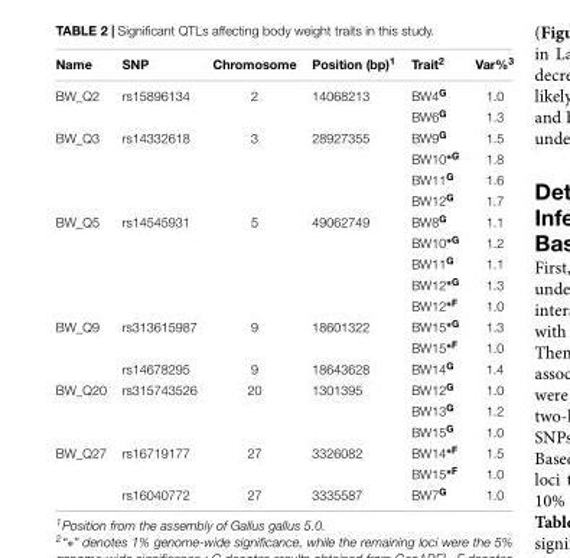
<table><thead><tr><td>Name</td><td>SNP</td><td>Chromosome</td><td>Position (bp)<sup>1</sup></td><td>Trait<sup>2</sup></td><td>Var%<sup>3</sup></td></tr></thead><tbody><tr><td rowspan="2">BW_Q2</td><td>rs15896134</td><td>2</td><td>14068213</td><td>BW4<sup>G</sup></td><td>1.0</td></tr><tr><td></td><td></td><td></td><td>BW6<sup>G</sup></td><td>1.3</td></tr><tr><td rowspan="4">BW_Q3</td><td>rs14332618</td><td>3</td><td>28927355</td><td>BW9<sup>G</sup></td><td>1.5</td></tr><tr><td></td><td></td><td></td><td>BW10<sup>∗G</sup></td><td>1.8</td></tr><tr><td></td><td></td><td></td><td>BW11<sup>G</sup></td><td>1.6</td></tr><tr><td></td><td></td><td></td><td>BW12<sup>G</sup></td><td>1.7</td></tr><tr><td rowspan="5">BW_Q5</td><td>rs14545931</td><td>5</td><td>49062749</td><td>BW8<sup>G</sup></td><td>1.1</td></tr><tr><td></td><td></td><td></td><td>BW10<sup>∗G</sup></td><td>1.2</td></tr><tr><td></td><td></td><td></td><td>BW11<sup>G</sup></td><td>1.1</td></tr><tr><td></td><td></td><td></td><td>BW12<sup>∗G</sup></td><td>1.3</td></tr><tr><td></td><td></td><td></td><td>BW12<sup>∗F</sup></td><td>1.0</td></tr><tr><td rowspan="3">BW_Q9</td><td>rs313615987</td><td>9</td><td>18601322</td><td>BW15<sup>∗G</sup></td><td>1.3</td></tr><tr><td></td><td></td><td></td><td>BW15<sup>∗F</sup></td><td>1.0</td></tr><tr><td>rs14678295</td><td>9</td><td>18643628</td><td>BW14<sup>G</sup></td><td>1.4</td></tr><tr><td rowspan="3">BW_Q20</td><td>rs315743526</td><td>20</td><td>1301395</td><td>BW12<sup>G</sup></td><td>1.0</td></tr><tr><td></td><td></td><td></td><td>BW13<sup>G</sup></td><td>1.2</td></tr><tr><td></td><td></td><td></td><td>BW15<sup>G</sup></td><td>1.0</td></tr><tr><td rowspan="3">BW_Q27</td><td>rs16719177</td><td>27</td><td>3326082</td><td>BW14<sup>∗F</sup></td><td>1.5</td></tr><tr><td></td><td></td><td></td><td>BW15<sup>∗F</sup></td><td>1.0</td></tr><tr><td>rs16040772</td><td>27</td><td>3335587</td><td>BW7<sup>G</sup></td><td>1.0</td></tr></tbody></table>